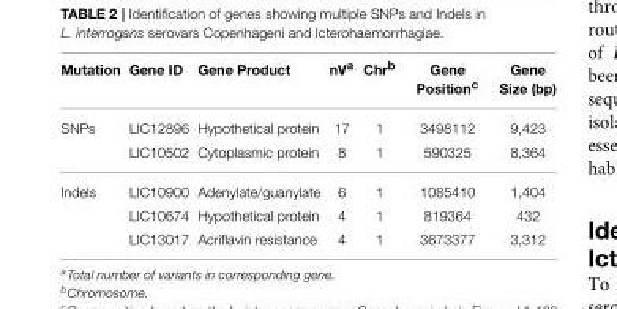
<table><thead><tr><td>Mutation</td><td>Gene ID</td><td>Gene Product</td><td>nV<sup>a</sup></td><td>Chr<sup>b</sup></td><td>Gene Position<sup>c</sup></td><td>Gene Size (bp)</td></tr></thead><tbody><tr><td rowspan="2">SNPs</td><td>LIC12896</td><td>Hypothetical protein</td><td>17</td><td>1</td><td>3498112</td><td>9,423</td></tr><tr><td>LIC10502</td><td>Cytoplasmic protein</td><td>8</td><td>1</td><td>590325</td><td>8,364</td></tr><tr><td rowspan="3">Indels</td><td>LIC10900</td><td>Adenylate/guanylate</td><td>6</td><td>1</td><td>1085410</td><td>1,404</td></tr><tr><td>LIC10674</td><td>Hypothetical protein</td><td>4</td><td>1</td><td>819364</td><td>432</td></tr><tr><td>LIC13017</td><td>Acriflavin resistance</td><td>4</td><td>1</td><td>3673377</td><td>3,312</td></tr></tbody></table>